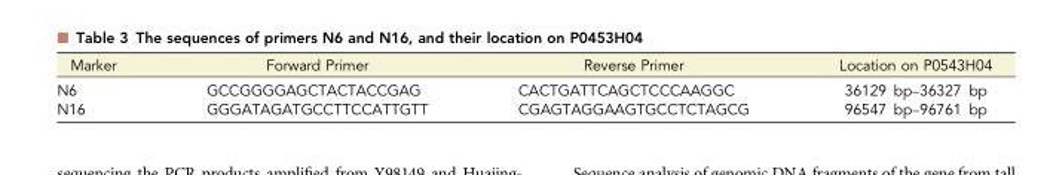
<table><thead><tr><td>Marker</td><td>Forward Primer</td><td>Reverse Primer</td><td>Location on P0543H04</td></tr></thead><tbody><tr><td>N6</td><td>GCCGGGGAGCTACTACCGAG</td><td>CACTGATTCAGCTCCCAAGGC</td><td>36129 bp–36327 bp</td></tr><tr><td>N16</td><td>GGGATAGATGCCTTCCATTGTT</td><td>CGAGTAGGAAGTGCCTCTAGCG</td><td>96547 bp–96761 bp</td></tr></tbody></table>